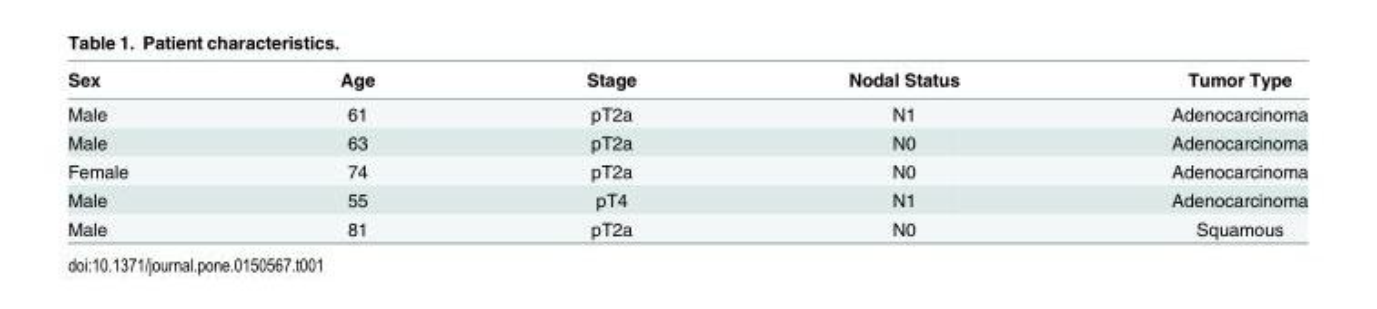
<table><thead><tr><td>Sex</td><td>Age</td><td>Stage</td><td>Nodal Status</td><td>Tumor Type</td></tr></thead><tbody><tr><td>Male</td><td>61</td><td>pT2a</td><td>N1</td><td>Adenocarcinoma</td></tr><tr><td>Male</td><td>63</td><td>pT2a</td><td>N0</td><td>Adenocarcinoma</td></tr><tr><td>Female</td><td>74</td><td>pT2a</td><td>N0</td><td>Adenocarcinoma</td></tr><tr><td>Male</td><td>55</td><td>pT4</td><td>N1</td><td>Adenocarcinoma</td></tr><tr><td>Male</td><td>81</td><td>pT2a</td><td>N0</td><td>Squamous</td></tr></tbody></table>